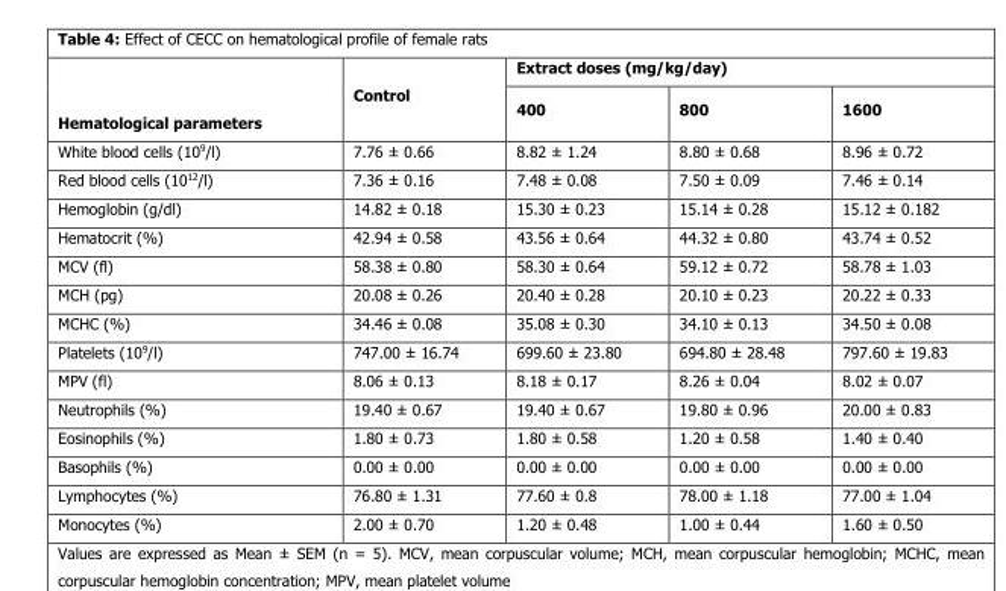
<table><thead><tr><td rowspan="2">Hematological parameters</td><td rowspan="2">Control</td><td colspan="3">Extract doses (mg/kg/day)</td></tr><tr><td>400</td><td>800</td><td>1600</td></tr></thead><tbody><tr><td>White blood cells (10<sup>9</sup>/l)</td><td>7.76 ± 0.66</td><td>8.82 ± 1.24</td><td>8.80 ± 0.68</td><td>8.96 ± 0.72</td></tr><tr><td>Red blood cells (10<sup>12</sup>/l)</td><td>7.36 ± 0.16</td><td>7.48 ± 0.08</td><td>7.50 ± 0.09</td><td>7.46 ± 0.14</td></tr><tr><td>Hemoglobin (g/dl)</td><td>14.82 ± 0.18</td><td>15.30 ± 0.23</td><td>15.14 ± 0.28</td><td>15.12 ± 0.182</td></tr><tr><td>Hematocrit (%)</td><td>42.94 ± 0.58</td><td>43.56 ± 0.64</td><td>44.32 ± 0.80</td><td>43.74 ± 0.52</td></tr><tr><td>MCV (fl)</td><td>58.38 ± 0.80</td><td>58.30 ± 0.64</td><td>59.12 ± 0.72</td><td>58.78 ± 1.03</td></tr><tr><td>MCH (pg)</td><td>20.08 ± 0.26</td><td>20.40 ± 0.28</td><td>20.10 ± 0.23</td><td>20.22 ± 0.33</td></tr><tr><td>MCHC (%)</td><td>34.46 ± 0.08</td><td>35.08 ± 0.30</td><td>34.10 ± 0.13</td><td>34.50 ± 0.08</td></tr><tr><td>Platelets (10<sup>9</sup>/l)</td><td>747.00 ± 16.74</td><td>699.60 ± 23.80</td><td>694.80 ± 28.48</td><td>797.60 ± 19.83</td></tr><tr><td>MPV (fl)</td><td>8.06 ± 0.13</td><td>8.18 ± 0.17</td><td>8.26 ± 0.04</td><td>8.02 ± 0.07</td></tr><tr><td>Neutrophils (%)</td><td>19.40 ± 0.67</td><td>19.40 ± 0.67</td><td>19.80 ± 0.96</td><td>20.00 ± 0.83</td></tr><tr><td>Eosinophils (%)</td><td>1.80 ± 0.73</td><td>1.80 ± 0.58</td><td>1.20 ± 0.58</td><td>1.40 ± 0.40</td></tr><tr><td>Basophils (%)</td><td>0.00 ± 0.00</td><td>0.00 ± 0.00</td><td>0.00 ± 0.00</td><td>0.00 ± 0.00</td></tr><tr><td>Lymphocytes (%)</td><td>76.80 ± 1.31</td><td>77.60 ± 0.8</td><td>78.00 ± 1.18</td><td>77.00 ± 1.04</td></tr><tr><td>Monocytes (%)</td><td>2.00 ± 0.70</td><td>1.20 ± 0.48</td><td>1.00 ± 0.44</td><td>1.60 ± 0.50</td></tr></tbody></table>